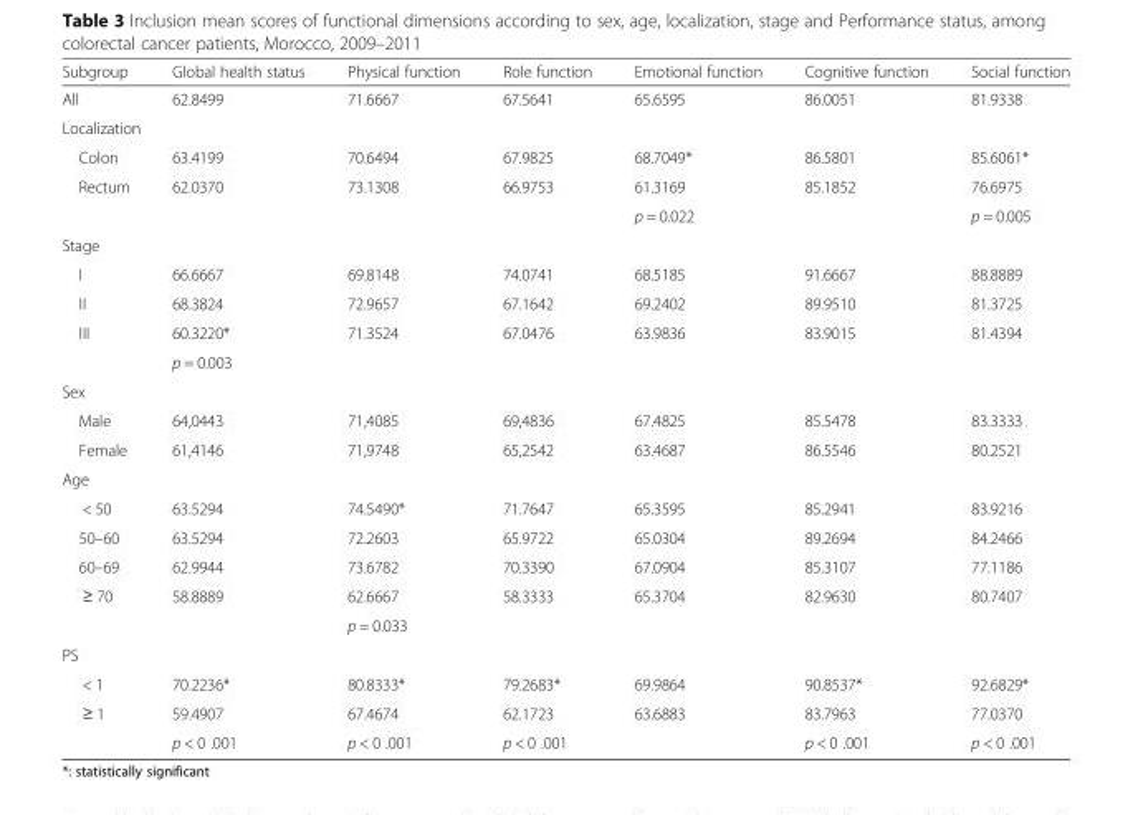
<table><thead><tr><td>Subgroup</td><td>Global health status</td><td>Physical function</td><td>Role function</td><td>Emotional function</td><td>Cognitive function</td><td>Social function</td></tr></thead><tbody><tr><td>All</td><td>62.8499</td><td>71.6667</td><td>67.5641</td><td>65.6595</td><td>86.0051</td><td>81.9338</td></tr><tr><td colspan="7">Localization</td></tr><tr><td>Colon</td><td>63.4199</td><td>70.6494</td><td>67.9825</td><td>68.7049*</td><td>86.5801</td><td>85.6061*</td></tr><tr><td rowspan="2">Rectum</td><td>62.0370</td><td>73.1308</td><td>66.9753</td><td>61.3169</td><td>85.1852</td><td>76.6975</td></tr><tr><td></td><td></td><td></td><td>p = 0.022</td><td></td><td>p = 0.005</td></tr><tr><td colspan="7">Stage</td></tr><tr><td>I</td><td>66.6667</td><td>69.8148</td><td>74.0741</td><td>68.5185</td><td>91.6667</td><td>88.8889</td></tr><tr><td>II</td><td>68.3824</td><td>72.9657</td><td>67.1642</td><td>69.2402</td><td>89.9510</td><td>81.3725</td></tr><tr><td rowspan="2">III</td><td>60.3220*</td><td>71.3524</td><td>67.0476</td><td>63.9836</td><td>83.9015</td><td>81.4394</td></tr><tr><td>p = 0.003</td><td></td><td></td><td></td><td></td><td></td></tr><tr><td colspan="7">Sex</td></tr><tr><td>Male</td><td>64,0443</td><td>71,4085</td><td>69,4836</td><td>67.4825</td><td>85.5478</td><td>83.3333</td></tr><tr><td>Female</td><td>61,4146</td><td>71,9748</td><td>65,2542</td><td>63.4687</td><td>86.5546</td><td>80.2521</td></tr><tr><td colspan="7">Age</td></tr><tr><td>&lt; 50</td><td>63.5294</td><td>74.5490*</td><td>71.7647</td><td>65.3595</td><td>85.2941</td><td>83.9216</td></tr><tr><td>50–60</td><td>63.5294</td><td>72.2603</td><td>65.9722</td><td>65.0304</td><td>89.2694</td><td>84.2466</td></tr><tr><td>60–69</td><td>62.9944</td><td>73.6782</td><td>70.3390</td><td>67.0904</td><td>85.3107</td><td>77.1186</td></tr><tr><td rowspan="2">≥ 70</td><td>58.8889</td><td>62.6667</td><td>58.3333</td><td>65.3704</td><td>82.9630</td><td>80.7407</td></tr><tr><td></td><td>p = 0.033</td><td></td><td></td><td></td><td></td></tr><tr><td colspan="7">PS</td></tr><tr><td>&lt; 1</td><td>70.2236*</td><td>80.8333*</td><td>79.2683*</td><td>69.9864</td><td>90.8537*</td><td>92.6829*</td></tr><tr><td rowspan="2">≥ 1</td><td>59.4907</td><td>67.4674</td><td>62.1723</td><td>63.6883</td><td>83.7963</td><td>77.0370</td></tr><tr><td>p &lt; 0 .001</td><td>p &lt; 0 .001</td><td>p &lt; 0 .001</td><td></td><td>p &lt; 0 .001</td><td>p &lt; 0 .001</td></tr></tbody></table>